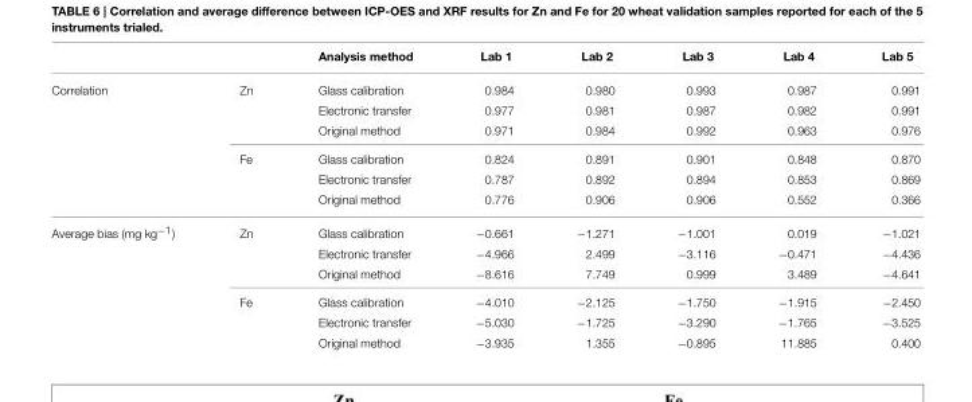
<table><thead><tr><td></td><td></td><td>Analysis method</td><td>Lab 1</td><td>Lab 2</td><td>Lab 3</td><td>Lab 4</td><td>Lab 5</td></tr></thead><tbody><tr><td rowspan="6">Correlation</td><td>Zn</td><td>Glass calibration</td><td>0.984</td><td>0.980</td><td>0.993</td><td>0.987</td><td>0.991</td></tr><tr><td></td><td>Electronic transfer</td><td>0.977</td><td>0.981</td><td>0.987</td><td>0.982</td><td>0.991</td></tr><tr><td></td><td>Original method</td><td>0.971</td><td>0.984</td><td>0.992</td><td>0.963</td><td>0.976</td></tr><tr><td>Fe</td><td>Glass calibration</td><td>0.824</td><td>0.891</td><td>0.901</td><td>0.848</td><td>0.870</td></tr><tr><td></td><td>Electronic transfer</td><td>0.787</td><td>0.892</td><td>0.894</td><td>0.853</td><td>0.869</td></tr><tr><td></td><td>Original method</td><td>0.776</td><td>0.906</td><td>0.906</td><td>0.552</td><td>0.366</td></tr><tr><td rowspan="6">Average bias (mg kg<sup>−1</sup>)</td><td>Zn</td><td>Glass calibration</td><td>−0.661</td><td>−1.271</td><td>−1.001</td><td>0.019</td><td>−1.021</td></tr><tr><td></td><td>Electronic transfer</td><td>−4.966</td><td>2.499</td><td>−3.116</td><td>−0.471</td><td>−4.436</td></tr><tr><td></td><td>Original method</td><td>−8.616</td><td>7.749</td><td>0.999</td><td>3.489</td><td>−4.641</td></tr><tr><td>Fe</td><td>Glass calibration</td><td>−4.010</td><td>−2.125</td><td>−1.750</td><td>−1.915</td><td>−2.450</td></tr><tr><td></td><td>Electronic transfer</td><td>−5.030</td><td>−1.725</td><td>−3.290</td><td>−1.765</td><td>−3.525</td></tr><tr><td></td><td>Original method</td><td>−3.935</td><td>1.355</td><td>−0.895</td><td>11.885</td><td>0.400</td></tr></tbody></table>